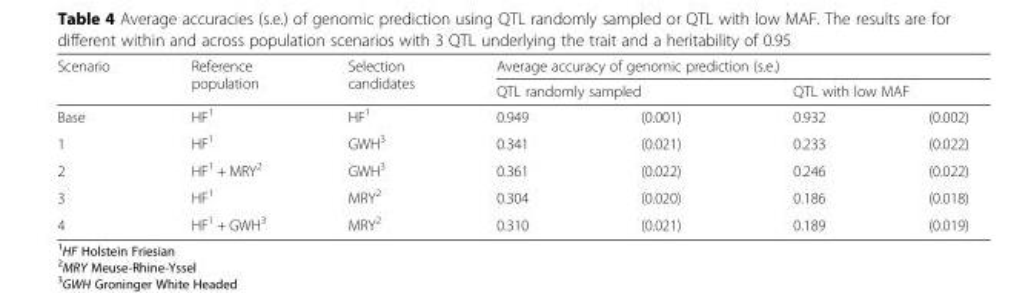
<table><thead><tr><td rowspan="3">Scenario Base</td><td rowspan="3">Reference population HF<sup>1</sup></td><td rowspan="3">Selection candidates HF<sup>1</sup></td><td colspan="4">Average accuracy of genomic prediction (s.e.)</td></tr><tr><td colspan="2">QTL randomly sampled</td><td colspan="2">QTL with low MAF</td></tr><tr><td>0.949</td><td>(0.001)</td><td>0.932</td><td>(0.002)</td></tr></thead><tbody><tr><td>1</td><td>HF<sup>1</sup></td><td>GWH<sup>3</sup></td><td>0.341</td><td>(0.021)</td><td>0.233</td><td>(0.022)</td></tr><tr><td>2</td><td>HF<sup>1</sup> + MRY<sup>2</sup></td><td>GWH<sup>3</sup></td><td>0.361</td><td>(0.022)</td><td>0.246</td><td>(0.022)</td></tr><tr><td>3</td><td>HF<sup>1</sup></td><td>MRY<sup>2</sup></td><td>0.304</td><td>(0.020)</td><td>0.186</td><td>(0.018)</td></tr><tr><td>4</td><td>HF<sup>1</sup> + GWH<sup>3</sup></td><td>MRY<sup>2</sup></td><td>0.310</td><td>(0.021)</td><td>0.189</td><td>(0.019)</td></tr></tbody></table>